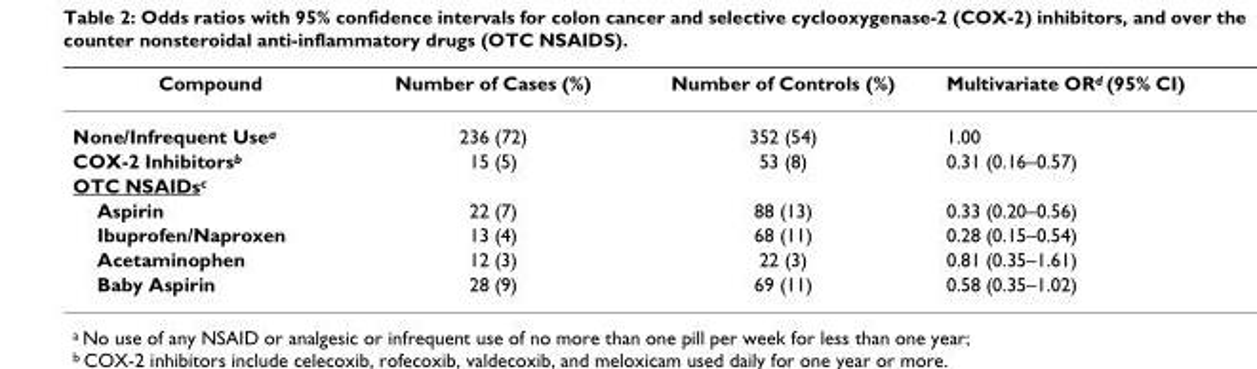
<table><thead><tr><td>Compound</td><td>Number of Cases (%)</td><td>Number of Controls (%)</td><td>Multivariate ORd (95% CI)</td></tr></thead><tbody><tr><td>None/Infrequent Use<sup>a</sup></td><td>236 (72)</td><td>352 (54)</td><td>1.00</td></tr><tr><td>COX-2 Inhibitors<sup>b</sup></td><td>15 (5)</td><td>53 (8)</td><td>0.31 (0.16–0.57)</td></tr><tr><td colspan="4">OTC NSAIDs<sup>c</sup></td></tr><tr><td>Aspirin</td><td>22 (7)</td><td>88 (13)</td><td>0.33 (0.20–0.56)</td></tr><tr><td>Ibuprofen/Naproxen</td><td>13 (4)</td><td>68 (11)</td><td>0.28 (0.15–0.54)</td></tr><tr><td>Acetaminophen</td><td>12 (3)</td><td>22 (3)</td><td>0.81 (0.35–1.61)</td></tr><tr><td>Baby Aspirin</td><td>28 (9)</td><td>69 (11)</td><td>0.58 (0.35–1.02)</td></tr></tbody></table>